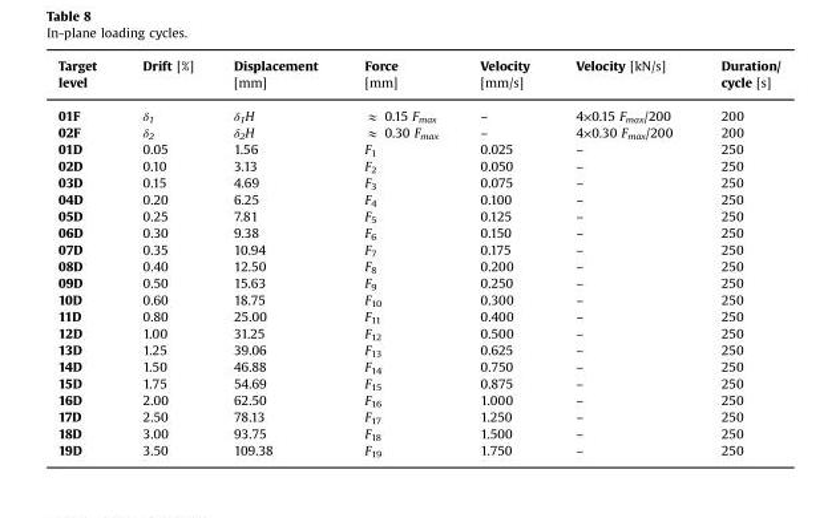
<table><thead><tr><td>Target level</td><td>Drift [%]</td><td>Displacement [mm]</td><td>Force [mm]</td><td>Velocity [mm/s]</td><td>Velocity [kN/s]</td><td>Duration/ cycle [s]</td></tr></thead><tbody><tr><td>01F</td><td>δ<sub>1</sub></td><td>δ<sub>1</sub>H</td><td>≈ 0.15 F<sub>max</sub></td><td>–</td><td>4×0.15 F<sub>max</sub>/200</td><td>200</td></tr><tr><td>02F</td><td>δ<sub>2</sub></td><td>δ<sub>2</sub>H</td><td>≈ 0.30 F<sub>max</sub></td><td>–</td><td>4×0.30 F<sub>max</sub>/200</td><td>200</td></tr><tr><td>01D</td><td>0.05</td><td>1.56</td><td>F<sub>1</sub></td><td>0.025</td><td>–</td><td>250</td></tr><tr><td>02D</td><td>0.10</td><td>3.13</td><td>F<sub>2</sub></td><td>0.050</td><td>–</td><td>250</td></tr><tr><td>03D</td><td>0.15</td><td>4.69</td><td>F<sub>3</sub></td><td>0.075</td><td>–</td><td>250</td></tr><tr><td>04D</td><td>0.20</td><td>6.25</td><td>F<sub>4</sub></td><td>0.100</td><td>–</td><td>250</td></tr><tr><td>05D</td><td>0.25</td><td>7.81</td><td>F<sub>5</sub></td><td>0.125</td><td>–</td><td>250</td></tr><tr><td>06D</td><td>0.30</td><td>9.38</td><td>F<sub>6</sub></td><td>0.150</td><td>–</td><td>250</td></tr><tr><td>07D</td><td>0.35</td><td>10.94</td><td>F<sub>7</sub></td><td>0.175</td><td>–</td><td>250</td></tr><tr><td>08D</td><td>0.40</td><td>12.50</td><td>F<sub>8</sub></td><td>0.200</td><td>–</td><td>250</td></tr><tr><td>09D</td><td>0.50</td><td>15.63</td><td>F<sub>9</sub></td><td>0.250</td><td>–</td><td>250</td></tr><tr><td>10D</td><td>0.60</td><td>18.75</td><td>F<sub>10</sub></td><td>0.300</td><td>–</td><td>250</td></tr><tr><td>11D</td><td>0.80</td><td>25.00</td><td>F<sub>11</sub></td><td>0.400</td><td>–</td><td>250</td></tr><tr><td>12D</td><td>1.00</td><td>31.25</td><td>F<sub>12</sub></td><td>0.500</td><td>–</td><td>250</td></tr><tr><td>13D</td><td>1.25</td><td>39.06</td><td>F<sub>13</sub></td><td>0.625</td><td>–</td><td>250</td></tr><tr><td>14D</td><td>1.50</td><td>46.88</td><td>F<sub>14</sub></td><td>0.750</td><td>–</td><td>250</td></tr><tr><td>15D</td><td>1.75</td><td>54.69</td><td>F<sub>15</sub></td><td>0.875</td><td>–</td><td>250</td></tr><tr><td>16D</td><td>2.00</td><td>62.50</td><td>F<sub>16</sub></td><td>1.000</td><td>–</td><td>250</td></tr><tr><td>17D</td><td>2.50</td><td>78.13</td><td>F<sub>17</sub></td><td>1.250</td><td>–</td><td>250</td></tr><tr><td>18D</td><td>3.00</td><td>93.75</td><td>F<sub>18</sub></td><td>1.500</td><td>–</td><td>250</td></tr><tr><td>19D</td><td>3.50</td><td>109.38</td><td>F<sub>19</sub></td><td>1.750</td><td>–</td><td>250</td></tr></tbody></table>